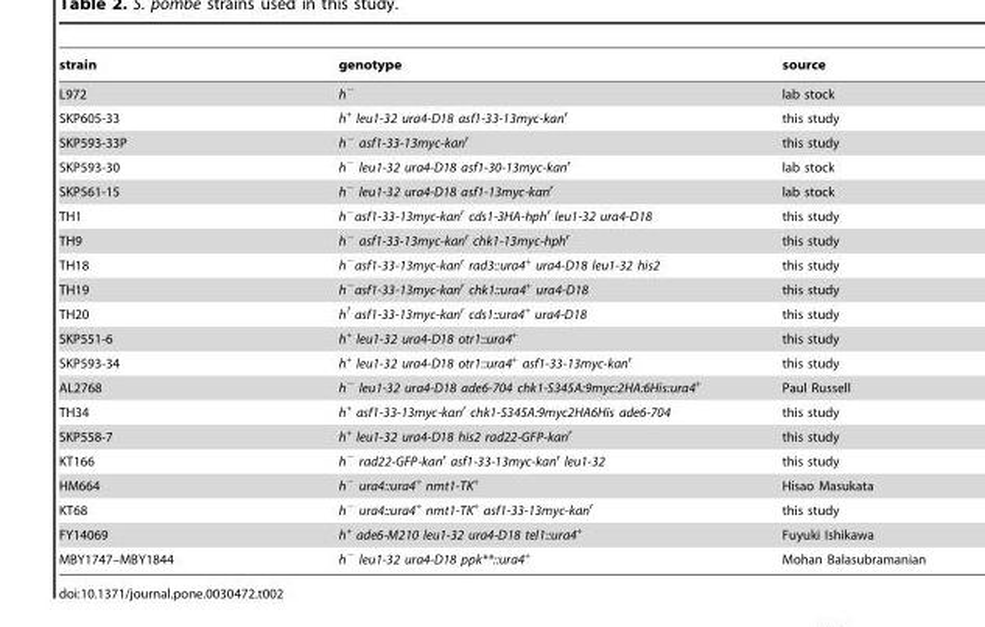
<table><thead><tr><td>strain</td><td>genotype</td><td>source</td></tr></thead><tbody><tr><td>L972</td><td>h<sup>−</sup></td><td>lab stock</td></tr><tr><td>SKP605-33</td><td>h<sup>+</sup> leu1-32 ura4-D18 asf1-33-13myc-kan<sup>r</sup></td><td>this study</td></tr><tr><td>SKP593-33P</td><td>h<sup>−</sup> asf1-33-13myc-kan<sup>r</sup></td><td>this study</td></tr><tr><td>SKP593-30</td><td>h<sup>−</sup> leu1-32 ura4-D18 asf1-30-13myc-kan<sup>r</sup></td><td>lab stock</td></tr><tr><td>SKP561-15</td><td>h<sup>−</sup> leu1-32 ura4-D18 asf1-13myc-kan<sup>r</sup></td><td>lab stock</td></tr><tr><td>TH1</td><td>h<sup>−</sup>asf1-33-13myc-kan<sup>r</sup> cds1-3HA-hph<sup>r</sup> leu1-32 ura4-D18</td><td>this study</td></tr><tr><td>TH9</td><td>h<sup>−</sup> asf1-33-13myc-kan<sup>r</sup> chk1-13myc-hph<sup>r</sup></td><td>this study</td></tr><tr><td>TH18</td><td>h<sup>−</sup>asf1-33-13myc-kan<sup>r</sup> rad3::ura4<sup>+</sup> ura4-D18 leu1-32 his2</td><td>this study</td></tr><tr><td>TH19</td><td>h<sup>−</sup>asf1-33-13myc-kan<sup>r</sup> chk1::ura4<sup>+</sup> ura4-D18</td><td>this study</td></tr><tr><td>TH20</td><td>h<sup>?</sup> asf1-33-13myc-kan<sup>r</sup> cds1::ura4<sup>+</sup> ura4-D18</td><td>this study</td></tr><tr><td>SKP551-6</td><td>h<sup>+</sup> leu1-32 ura4-D18 otr1::ura4<sup>+</sup></td><td>this study</td></tr><tr><td>SKP593-34</td><td>h<sup>+</sup> leu1-32 ura4-D18 otr1::ura4<sup>+</sup> asf1-33-13myc-kan<sup>r</sup></td><td>this study</td></tr><tr><td>AL2768</td><td>h<sup>−</sup> leu1-32 ura4-D18 ade6-704 chk1-S345A:9myc:2HA:6His:ura4<sup>+</sup></td><td>Paul Russell</td></tr><tr><td>TH34</td><td>h<sup>+</sup> asf1-33-13myc-kan<sup>r</sup> chk1-S345A:9myc2HA6His ade6-704</td><td>this study</td></tr><tr><td>SKP558-7</td><td>h<sup>+</sup> leu1-32 ura4-D18 his2 rad22-GFP-kan<sup>r</sup></td><td>this study</td></tr><tr><td>KT166</td><td>h<sup>−</sup> rad22-GFP-kan<sup>r</sup> asf1-33-13myc-kan<sup>r</sup> leu1-32</td><td>this study</td></tr><tr><td>HM664</td><td>h<sup>−</sup> ura4::ura4<sup>+</sup> nmt1-TK<sup>+</sup></td><td>Hisao Masukata</td></tr><tr><td>KT68</td><td>h<sup>−</sup> ura4::ura4<sup>+</sup> nmt1-TK<sup>+</sup> asf1-33-13myc-kan<sup>r</sup></td><td>this study</td></tr><tr><td>FY14069</td><td>h<sup>+</sup> ade6-M210 leu1-32 ura4-D18 tel1::ura4<sup>+</sup></td><td>Fuyuki Ishikawa</td></tr><tr><td>MBY1747–MBY1844</td><td>h<sup>−</sup> leu1-32 ura4-D18 ppk**::ura4<sup>+</sup></td><td>Mohan Balasubramanian</td></tr></tbody></table>